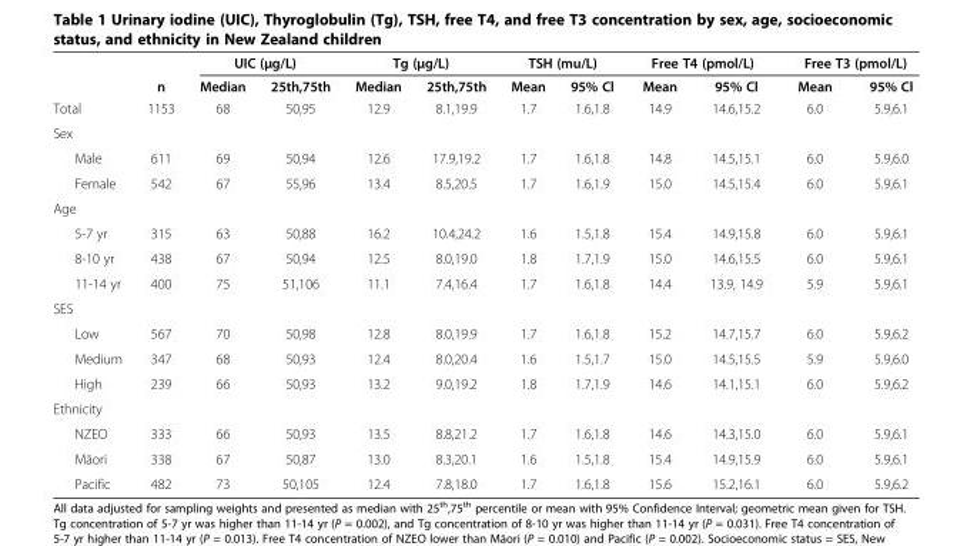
<table><thead><tr><td rowspan="2"></td><td rowspan="2">n</td><td colspan="2">UIC (μg/L)</td><td colspan="2">Tg (μg/L)</td><td colspan="2">TSH (mu/L)</td><td colspan="2">Free T4 (pmol/L)</td><td colspan="2">Free T3 (pmol/L)</td></tr><tr><td>Median</td><td>25th,75th</td><td>Median</td><td>25th,75th</td><td>Mean</td><td>95% Cl</td><td>Mean</td><td>95% Cl</td><td>Mean</td><td>95% Cl</td></tr></thead><tbody><tr><td>Total</td><td>1153</td><td>68</td><td>50,95</td><td>12.9</td><td>8.1,19.9</td><td>1.7</td><td>1.6,1.8</td><td>14.9</td><td>14.6,15.2</td><td>6.0</td><td>5.9,6.1</td></tr><tr><td colspan="12">Sex</td></tr><tr><td>Male</td><td>611</td><td>69</td><td>50,94</td><td>12.6</td><td>17.9,19.2</td><td>1.7</td><td>1.6,1.8</td><td>14.8</td><td>14.5,15.1</td><td>6.0</td><td>5.9,6.0</td></tr><tr><td>Female</td><td>542</td><td>67</td><td>55,96</td><td>13.4</td><td>8.5,20.5</td><td>1.7</td><td>1.6,1.9</td><td>15.0</td><td>14.5,15.4</td><td>6.0</td><td>5.9,6.1</td></tr><tr><td colspan="12">Age</td></tr><tr><td>5-7 yr</td><td>315</td><td>63</td><td>50,88</td><td>16.2</td><td>10.4,24.2</td><td>1.6</td><td>1.5,1.8</td><td>15.4</td><td>14.9,15.8</td><td>6.0</td><td>5.9,6.1</td></tr><tr><td>8-10 yr</td><td>438</td><td>67</td><td>50,94</td><td>12.5</td><td>8.0,19.0</td><td>1.8</td><td>1.7,1.9</td><td>15.0</td><td>14.6,15.5</td><td>6.0</td><td>5.9,6.1</td></tr><tr><td>11-14 yr</td><td>400</td><td>75</td><td>51,106</td><td>11.1</td><td>7.4,16.4</td><td>1.7</td><td>1.6,1.8</td><td>14.4</td><td>13.9, 14.9</td><td>5.9</td><td>5.9,6.1</td></tr><tr><td colspan="12">SES</td></tr><tr><td>Low</td><td>567</td><td>70</td><td>50,98</td><td>12.8</td><td>8.0,19.9</td><td>1.7</td><td>1.6,1.8</td><td>15.2</td><td>14.7,15.7</td><td>6.0</td><td>5.9,6.2</td></tr><tr><td>Medium</td><td>347</td><td>68</td><td>50,93</td><td>12.4</td><td>8.0,20.4</td><td>1.6</td><td>1.5,1.7</td><td>15.0</td><td>14.5,15.5</td><td>5.9</td><td>5.9,6.0</td></tr><tr><td>High</td><td>239</td><td>66</td><td>50,93</td><td>13.2</td><td>9.0,19.2</td><td>1.8</td><td>1.7,1.9</td><td>14.6</td><td>14.1,15.1</td><td>6.0</td><td>5.9,6.2</td></tr><tr><td colspan="12">Ethnicity</td></tr><tr><td>NZEO</td><td>333</td><td>66</td><td>50,93</td><td>13.5</td><td>8.8,21.2</td><td>1.7</td><td>1.6,1.8</td><td>14.6</td><td>14.3,15.0</td><td>6.0</td><td>5.9,6.1</td></tr><tr><td>Māori</td><td>338</td><td>67</td><td>50,87</td><td>13.0</td><td>8.3,20.1</td><td>1.6</td><td>1.5,1.8</td><td>15.4</td><td>14.9,15.9</td><td>6.0</td><td>5.9,6.1</td></tr><tr><td>Pacific</td><td>482</td><td>73</td><td>50,105</td><td>12.4</td><td>7.8,18.0</td><td>1.7</td><td>1.6,1.8</td><td>15.6</td><td>15.2,16.1</td><td>6.0</td><td>5.9,6.2</td></tr></tbody></table>